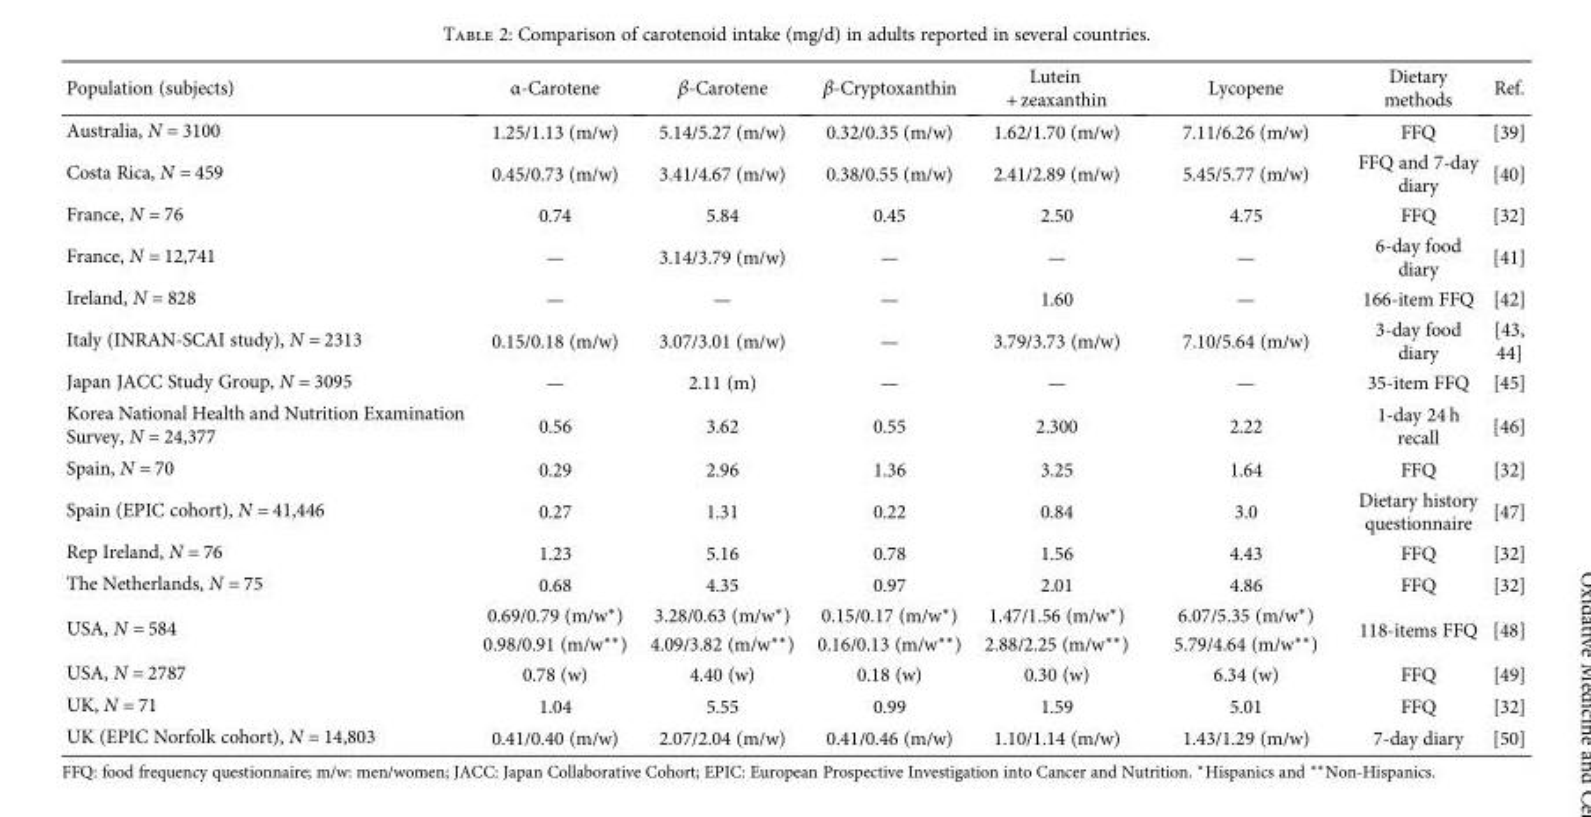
<table><thead><tr><td>Population (subjects)</td><td>α-Carotene</td><td>β-Carotene</td><td>β-Cryptoxanthin</td><td>Lutein + zeaxanthin</td><td>Lycopene</td><td>Dietary methods</td><td>Ref.</td></tr></thead><tbody><tr><td>Australia, N = 3100</td><td>1.25/1.13 (m/w)</td><td>5.14/5.27 (m/w)</td><td>0.32/0.35 (m/w)</td><td>1.62/1.70 (m/w)</td><td>7.11/6.26 (m/w)</td><td>FFQ</td><td>[39]</td></tr><tr><td>Costa Rica, N = 459</td><td>0.45/0.73 (m/w)</td><td>3.41/4.67 (m/w)</td><td>0.38/0.55 (m/w)</td><td>2.41/2.89 (m/w)</td><td>5.45/5.77 (m/w)</td><td>FFQ and 7-day diary</td><td>[40]</td></tr><tr><td>France, N = 76</td><td>0.74</td><td>5.84</td><td>0.45</td><td>2.50</td><td>4.75</td><td>FFQ</td><td>[32]</td></tr><tr><td>France, N = 12,741</td><td>—</td><td>3.14/3.79 (m/w)</td><td>—</td><td>—</td><td>—</td><td>6-day food diary</td><td>[41]</td></tr><tr><td>Ireland, N = 828</td><td>—</td><td>—</td><td>—</td><td>1.60</td><td>—</td><td>166-item FFQ</td><td>[42]</td></tr><tr><td>Italy (INRAN-SCAI study), N = 2313</td><td>0.15/0.18 (m/w)</td><td>3.07/3.01 (m/w)</td><td>—</td><td>3.79/3.73 (m/w)</td><td>7.10/5.64 (m/w)</td><td>3-day food diary</td><td>[43, 44]</td></tr><tr><td>Japan JACC Study Group, N = 3095</td><td>—</td><td>2.11 (m)</td><td>—</td><td>—</td><td>—</td><td>35-item FFQ</td><td>[45]</td></tr><tr><td>Korea National Health and Nutrition Examination Survey, N = 24,377</td><td>0.56</td><td>3.62</td><td>0.55</td><td>2.300</td><td>2.22</td><td>1-day 24 h recall</td><td>[46]</td></tr><tr><td>Spain, N = 70</td><td>0.29</td><td>2.96</td><td>1.36</td><td>3.25</td><td>1.64</td><td>FFQ</td><td>[32]</td></tr><tr><td>Spain (EPIC cohort), N = 41,446</td><td>0.27</td><td>1.31</td><td>0.22</td><td>0.84</td><td>3.0</td><td>Dietary history questionnaire</td><td>[47]</td></tr><tr><td>Rep Ireland, N = 76</td><td>1.23</td><td>5.16</td><td>0.78</td><td>1.56</td><td>4.43</td><td>FFQ</td><td>[32]</td></tr><tr><td>The Netherlands, N = 75</td><td>0.68</td><td>4.35</td><td>0.97</td><td>2.01</td><td>4.86</td><td>FFQ</td><td>[32]</td></tr><tr><td rowspan="2">USA, N = 584</td><td>0.69/0.79 (m/w∗)</td><td>3.28/0.63 (m/w∗)</td><td>0.15/0.17 (m/w∗)</td><td>1.47/1.56 (m/w∗)</td><td>6.07/5.35 (m/w∗)</td><td rowspan="2">118-items FFQ</td><td rowspan="2">[48]</td></tr><tr><td>0.98/0.91 (m/w∗∗)</td><td>4.09/3.82 (m/w∗∗)</td><td>0.16/0.13 (m/w∗∗)</td><td>2.88/2.25 (m/w∗∗)</td><td>5.79/4.64 (m/w∗∗)</td></tr><tr><td>USA, N = 2787</td><td>0.78 (w)</td><td>4.40 (w)</td><td>0.18 (w)</td><td>0.30 (w)</td><td>6.34 (w)</td><td>FFQ</td><td>[49]</td></tr><tr><td>UK, N = 71</td><td>1.04</td><td>5.55</td><td>0.99</td><td>1.59</td><td>5.01</td><td>FFQ</td><td>[32]</td></tr><tr><td>UK (EPIC Norfolk cohort), N = 14,803</td><td>0.41/0.40 (m/w)</td><td>2.07/2.04 (m/w)</td><td>0.41/0.46 (m/w)</td><td>1.10/1.14 (m/w)</td><td>1.43/1.29 (m/w)</td><td>7-day diary</td><td>[50]</td></tr></tbody></table>